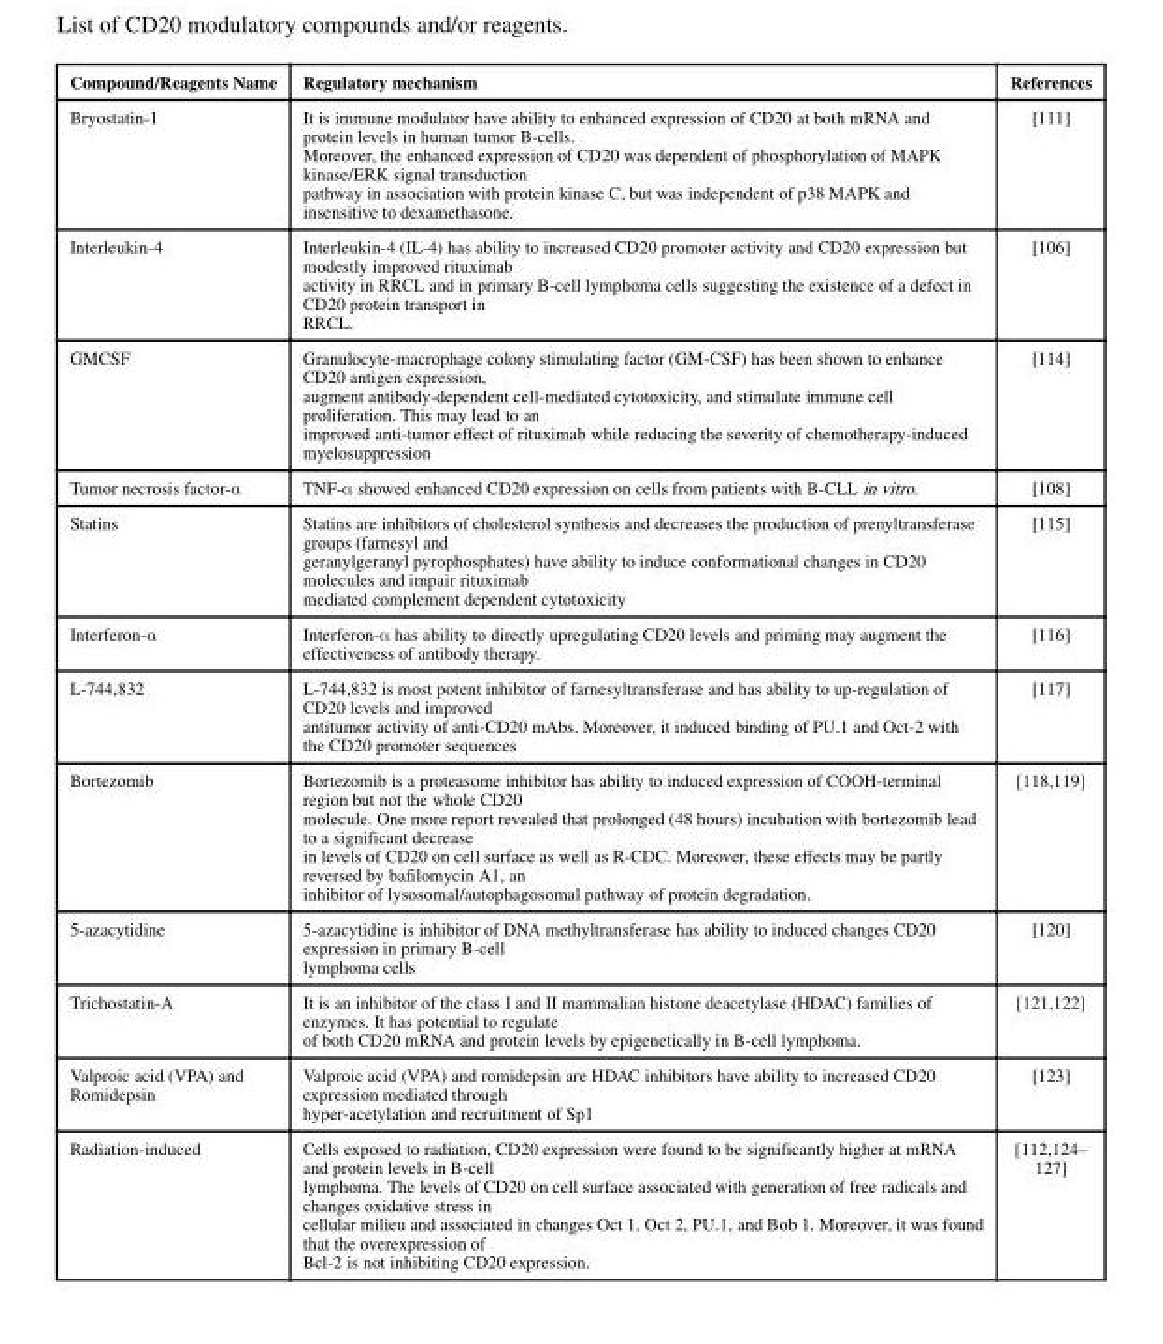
<table><thead><tr><td>Compound/Reagents Name</td><td>Regulatory mechanism</td><td>References</td></tr></thead><tbody><tr><td>Bryostatin-1</td><td>It is immune modulator have ability to enhanced expression of CD20 at both mRNA and protein levels in human tumor B-cells. Moreover, the enhanced expression of CD20 was dependent of phosphorylation of MAPK kinase/ERK signal transduction pathway in association with protein kinase C, but was independent of p38 MAPK and insensitive to dexamethasone.</td><td>[111]</td></tr><tr><td>Interleukin-4</td><td>Interleukin-4 (IL-4) has ability to increased CD20 promoter activity and CD20 expression but modestly improved rituximab activity in RRCL and in primary B-cell lymphoma cells suggesting the existence of a defect in CD20 protein transport in RRCL.</td><td>[106]</td></tr><tr><td>GMCSF</td><td>Granulocyte-macrophage colony stimulating factor (GM-CSF) has been shown to enhance CD20 antigen expression, augment antibody-dependent cell-mediated cytotoxicity, and stimulate immune cell proliferation. This may lead to an improved anti-tumor effect of rituximab while reducing the severity of chemotherapy-induced myelosuppression</td><td>[114]</td></tr><tr><td>Tumor necrosis factor-α</td><td>TNF-α showed enhanced CD20 expression on cells from patients with B-CLL in vitro.</td><td>[108]</td></tr><tr><td>Statins</td><td>Statins are inhibitors of cholesterol synthesis and decreases the production of prenyltransferase groups (farnesyl and geranylgeranyl pyrophosphates) have ability to induce conformational changes in CD20 molecules and impair rituximab mediated complement dependent cytotoxicity</td><td>[115]</td></tr><tr><td>Interferon-α</td><td>Interferon-α has ability to directly upregulating CD20 levels and priming may augment the effectiveness of antibody therapy.</td><td>[116]</td></tr><tr><td>L-744,832</td><td>L-744,832 is most potent inhibitor of farnesyltransferase and has ability to up-regulation of CD20 levels and improved antitumor activity of anti-CD20 mAbs. Moreover, it induced binding of PU.1 and Oct-2 with the CD20 promoter sequences</td><td>[117]</td></tr><tr><td>Bortezomib</td><td>Bortezomib is a proteasome inhibitor has ability to induced expression of COOH-terminal region but not the whole CD20 molecule. One more report revealed that prolonged (48 hours) incubation with bortezomib lead to a significant decrease in levels of CD20 on cell surface as well as R-CDC. Moreover, these effects may be partly reversed by bafilomycin A1, an inhibitor of lysosomal/autophagosomal pathway of protein degradation.</td><td>[118,119]</td></tr><tr><td>5-azacytidine</td><td>5-azacytidine is inhibitor of DNA methyltransferase has ability to induced changes CD20 expression in primary B-cell lymphoma cells</td><td>[120]</td></tr><tr><td>Trichostatin-A</td><td>It is an inhibitor of the class I and II mammalian histone deacetylase (HDAC) families of enzymes. It has potential to regulate of both CD20 mRNA and protein levels by epigenetically in B-cell lymphoma.</td><td>[121,122]</td></tr><tr><td>Valproic acid (VPA) and Romidepsin</td><td>Valproic acid (VPA) and romidepsin are HDAC inhibitors have ability to increased CD20 expression mediated through hyper-acetylation and recruitment of Sp1</td><td>[123]</td></tr><tr><td>Radiation-induced</td><td>Cells exposed to radiation, CD20 expression were found to be significantly higher at mRNA and protein levels in B-cell lymphoma. The levels of CD20 on cell surface associated with generation of free radicals and changes oxidative stress in cellular milieu and associated in changes Oct 1, Oct 2, PU.1, and Bob 1. Moreover, it was found that the overexpression of Bcl-2 is not inhibiting CD20 expression.</td><td>[112,124– 127]</td></tr></tbody></table>